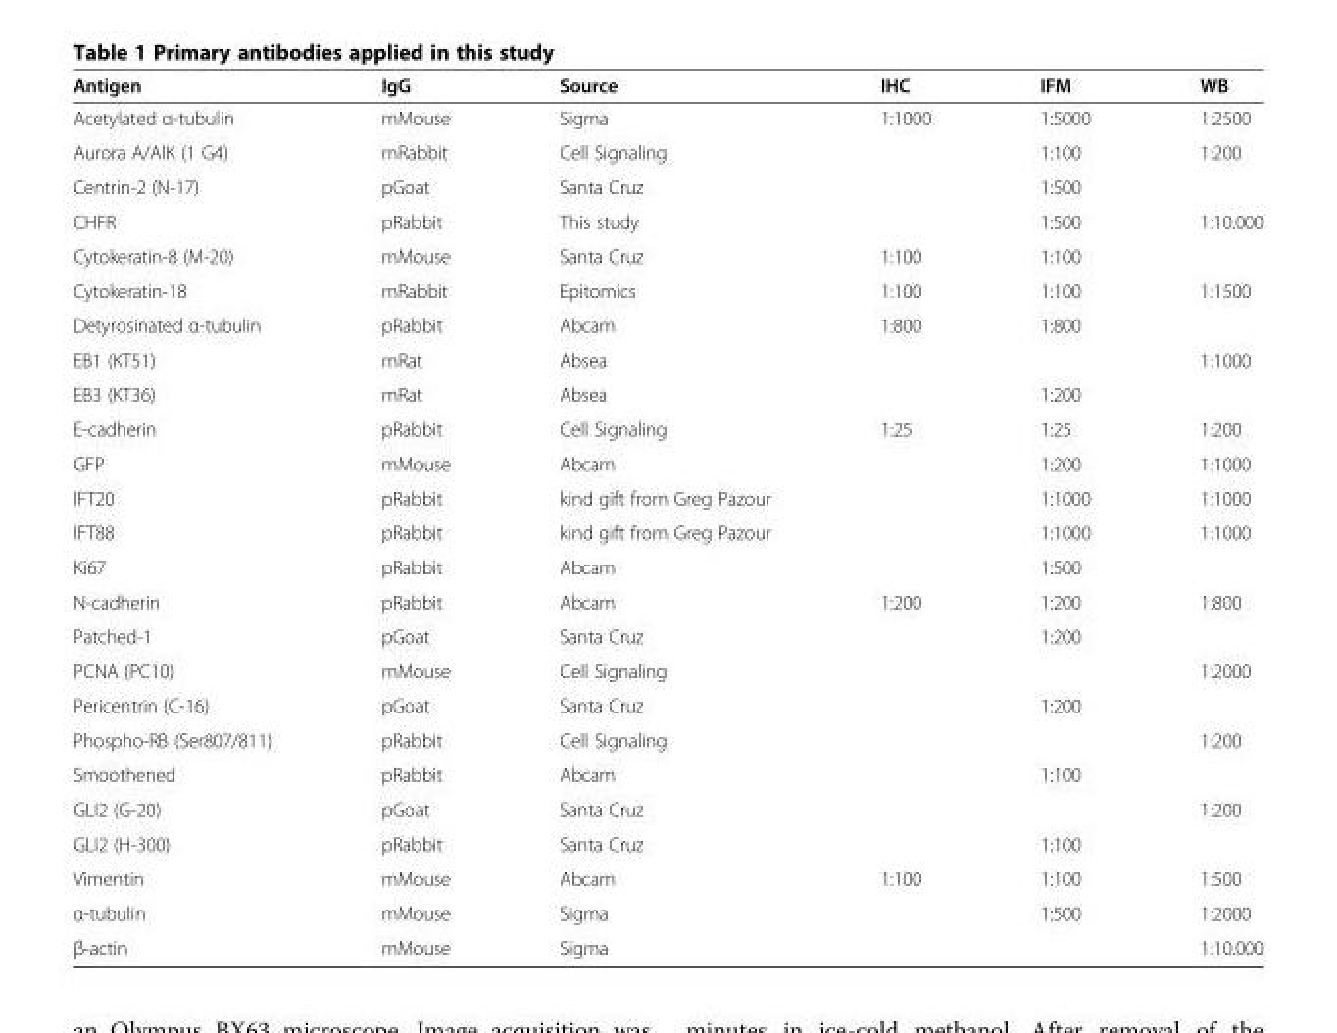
<table><thead><tr><td>Antigen</td><td>IgG</td><td>Source</td><td>IHC</td><td>IFM</td><td>WB</td></tr></thead><tbody><tr><td>Acetylated α-tubulin</td><td>mMouse</td><td>Sigma</td><td>1:1000</td><td>1:5000</td><td>1:2500</td></tr><tr><td>Aurora A/AlK (1 G4)</td><td>mRabbit</td><td>Cell Signaling</td><td></td><td>1:100</td><td>1:200</td></tr><tr><td>Centrin-2 (N-17)</td><td>pGoat</td><td>Santa Cruz</td><td></td><td>1:500</td><td></td></tr><tr><td>CHFR</td><td>pRabbit</td><td>This study</td><td></td><td>1:500</td><td>1:10.000</td></tr><tr><td>Cytokeratin-8 (M-20)</td><td>mMouse</td><td>Santa Cruz</td><td>1:100</td><td>1:100</td><td></td></tr><tr><td>Cytokeratin-18</td><td>mRabbit</td><td>Epitomics</td><td>1:100</td><td>1:100</td><td>1:1500</td></tr><tr><td>Detyrosinated α-tubulin</td><td>pRabbit</td><td>Abcam</td><td>1:800</td><td>1:800</td><td></td></tr><tr><td>EB1 (KT51)</td><td>mRat</td><td>Absea</td><td></td><td></td><td>1:1000</td></tr><tr><td>EB3 (KT36)</td><td>mRat</td><td>Absea</td><td></td><td>1:200</td><td></td></tr><tr><td>E-cadherin</td><td>pRabbit</td><td>Cell Signaling</td><td>1:25</td><td>1:25</td><td>1:200</td></tr><tr><td>GFP</td><td>mMouse</td><td>Abcam</td><td></td><td>1:200</td><td>1:1000</td></tr><tr><td>IFT20</td><td>pRabbit</td><td>kind gift from Greg Pazour</td><td></td><td>1:1000</td><td>1:1000</td></tr><tr><td>IFT88</td><td>pRabbit</td><td>kind gift from Greg Pazour</td><td></td><td>1:1000</td><td>1:1000</td></tr><tr><td>Ki67</td><td>pRabbit</td><td>Abcam</td><td></td><td>1:500</td><td></td></tr><tr><td>N-cadherin</td><td>pRabbit</td><td>Abcam</td><td>1:200</td><td>1:200</td><td>1:800</td></tr><tr><td>Patched-1</td><td>pGoat</td><td>Santa Cruz</td><td></td><td>1:200</td><td></td></tr><tr><td>PCNA (PC10)</td><td>mMouse</td><td>Cell Signaling</td><td></td><td></td><td>1:2000</td></tr><tr><td>Pericentrin (C-16)</td><td>pGoat</td><td>Santa Cruz</td><td></td><td>1:200</td><td></td></tr><tr><td>Phospho-RB (Ser807/811)</td><td>pRabbit</td><td>Cell Signaling</td><td></td><td></td><td>1:200</td></tr><tr><td>Smoothened</td><td>pRabbit</td><td>Abcam</td><td></td><td>1:100</td><td></td></tr><tr><td>GLI2 (G-20)</td><td>pGoat</td><td>Santa Cruz</td><td></td><td></td><td>1:200</td></tr><tr><td>GLI2 (H-300)</td><td>pRabbit</td><td>Santa Cruz</td><td></td><td>1:100</td><td></td></tr><tr><td>Vimentin</td><td>mMouse</td><td>Abcam</td><td>1:100</td><td>1:100</td><td>1:500</td></tr><tr><td>α-tubulin</td><td>mMouse</td><td>Sigma</td><td></td><td>1:500</td><td>1:2000</td></tr><tr><td>β-actin</td><td>mMouse</td><td>Sigma</td><td></td><td></td><td>1:10.000</td></tr></tbody></table>